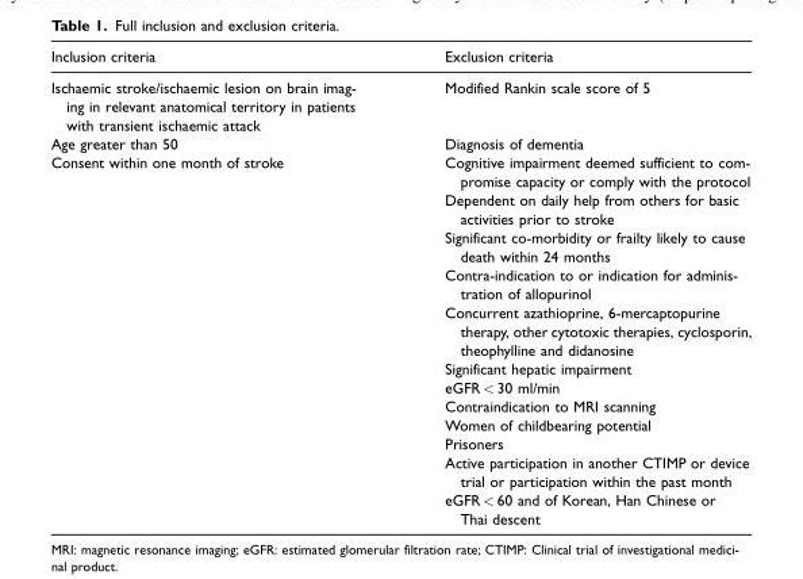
<table><thead><tr><td>Inclusion criteria</td><td>Exclusion criteria</td></tr></thead><tbody><tr><td>Ischaemic stroke/ischaemic lesion on brain imag- ing in relevant anatomical territory in patients with transient ischaemic attack</td><td>Modified Rankin scale score of 5</td></tr><tr><td>Age greater than 50</td><td>Diagnosis of dementia</td></tr><tr><td rowspan="12">Consent within one month of stroke</td><td>Cognitive impairment deemed sufficient to com- promise capacity or comply with the protocol</td></tr><tr><td>Dependent on daily help from others for basic activities prior to stroke</td></tr><tr><td>Significant co-morbidity or frailty likely to cause death within 24 months</td></tr><tr><td>Contra-indication to or indication for adminis- tration of allopurinol</td></tr><tr><td>Concurrent azathioprine, 6-mercaptopurine therapy, other cytotoxic therapies, cyclosporin, theophylline and didanosine</td></tr><tr><td>Significant hepatic impairment</td></tr><tr><td>eGFR &lt; 30 ml/min</td></tr><tr><td>Contraindication to MRI scanning</td></tr><tr><td>Women of childbearing potential</td></tr><tr><td>Prisoners</td></tr><tr><td>Active participation in another CTIMP or device trial or participation within the past month</td></tr><tr><td>eGFR &lt; 60 and of Korean, Han Chinese or Thai descent</td></tr></tbody></table>